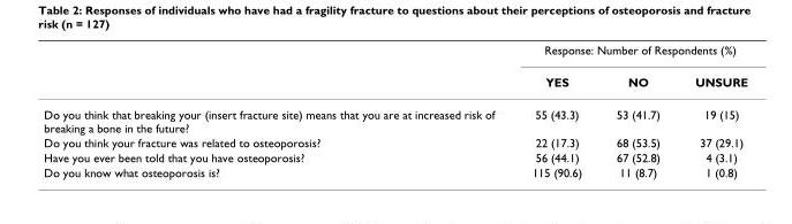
<table><thead><tr><td rowspan="2"></td><td colspan="3">Response: Number of Respondents (%)</td></tr><tr><td>YES</td><td>NO</td><td>UNSURE</td></tr></thead><tbody><tr><td>Do you think that breaking your (insert fracture site) means that you are at increased risk of breaking a bone in the future?</td><td>55 (43.3)</td><td>53 (41.7)</td><td>19 (15)</td></tr><tr><td>Do you think your fracture was related to osteoporosis?</td><td>22 (17.3)</td><td>68 (53.5)</td><td>37 (29.1)</td></tr><tr><td>Have you ever been told that you have osteoporosis?</td><td>56 (44.1)</td><td>67 (52.8)</td><td>4 (3.1)</td></tr><tr><td>Do you know what osteoporosis is?</td><td>115 (90.6)</td><td>11 (8.7)</td><td>1 (0.8)</td></tr></tbody></table>